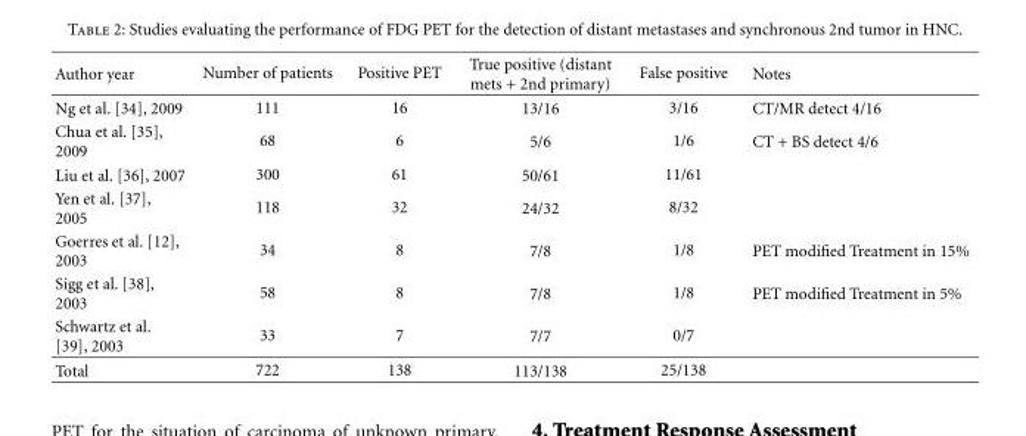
<table><thead><tr><td>Author year</td><td>Number of patients</td><td>Positive PET</td><td>True positive (distant mets + 2nd primary)</td><td>False positive</td><td>Notes</td></tr></thead><tbody><tr><td>Ng et al. [34], 2009</td><td>111</td><td>16</td><td>13/16</td><td>3/16</td><td>CT/MR detect 4/16</td></tr><tr><td>Chua et al. [35], 2009</td><td>68</td><td>6</td><td>5/6</td><td>1/6</td><td>CT + BS detect 4/6</td></tr><tr><td>Liu et al. [36], 2007</td><td>300</td><td>61</td><td>50/61</td><td>11/61</td><td></td></tr><tr><td>Yen et al. [37], 2005</td><td>118</td><td>32</td><td>24/32</td><td>8/32</td><td></td></tr><tr><td>Goerres et al. [12], 2003</td><td>34</td><td>8</td><td>7/8</td><td>1/8</td><td>PET modified Treatment in 15%</td></tr><tr><td>Sigg et al. [38], 2003</td><td>58</td><td>8</td><td>7/8</td><td>1/8</td><td>PET modified Treatment in 5%</td></tr><tr><td>Schwartz et al. [39], 2003</td><td>33</td><td>7</td><td>7/7</td><td>0/7</td><td></td></tr><tr><td>Total</td><td>722</td><td>138</td><td>113/138</td><td>25/138</td><td></td></tr></tbody></table>